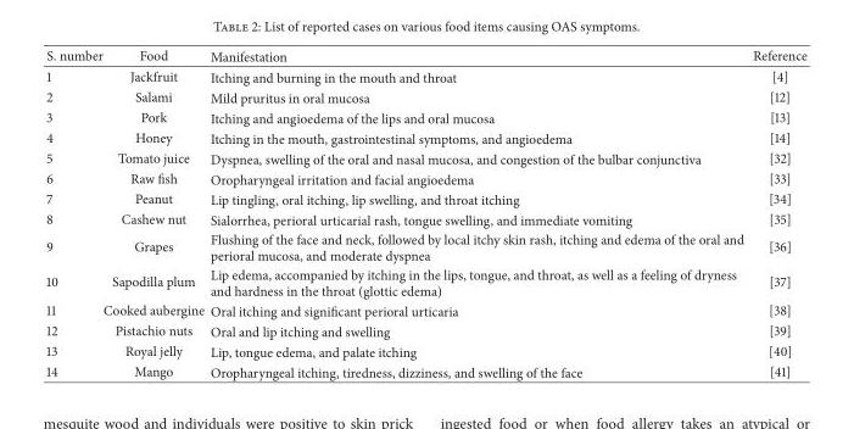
<table><thead><tr><td>S. number</td><td>Food</td><td>Manifestation</td><td>Reference</td></tr></thead><tbody><tr><td>1</td><td>Jackfruit</td><td>Itching and burning in the mouth and throat</td><td>[4]</td></tr><tr><td>2</td><td>Salami</td><td>Mild pruritus in oral mucosa</td><td>[12]</td></tr><tr><td>3</td><td>Pork</td><td>Itching and angioedema of the lips and oral mucosa</td><td>[13]</td></tr><tr><td>4</td><td>Honey</td><td>Itching in the mouth, gastrointestinal symptoms, and angioedema</td><td>[14]</td></tr><tr><td>5</td><td>Tomato juice</td><td>Dyspnea, swelling of the oral and nasal mucosa, and congestion of the bulbar conjunctiva</td><td>[32]</td></tr><tr><td>6</td><td>Raw fish</td><td>Oropharyngeal irritation and facial angioedema</td><td>[33]</td></tr><tr><td>7</td><td>Peanut</td><td>Lip tingling, oral itching, lip swelling, and throat itching</td><td>[34]</td></tr><tr><td>8</td><td>Cashew nut</td><td>Sialorrhea, perioral urticarial rash, tongue swelling, and immediate vomiting</td><td>[35]</td></tr><tr><td>9</td><td>Grapes</td><td>Flushing of the face and neck, followed by local itchy skin rash, itching and edema of the oral and perioral mucosa, and moderate dyspnea</td><td>[36]</td></tr><tr><td>10</td><td>Sapodilla plum</td><td>Lip edema, accompanied by itching in the lips, tongue, and throat, as well as a feeling of dryness and hardness in the throat (glottic edema)</td><td>[37]</td></tr><tr><td>11</td><td>Cooked aubergine</td><td>Oral itching and significant perioral urticaria</td><td>[38]</td></tr><tr><td>12</td><td>Pistachio nuts</td><td>Oral and lip itching and swelling</td><td>[39]</td></tr><tr><td>13</td><td>Royal jelly</td><td>Lip, tongue edema, and palate itching</td><td>[40]</td></tr><tr><td>14</td><td>Mango</td><td>Oropharyngeal itching, tiredness, dizziness, and swelling of the face</td><td>[41]</td></tr></tbody></table>